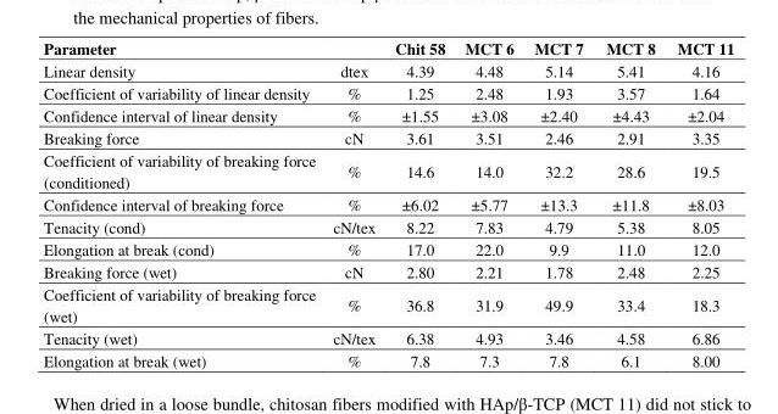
<table><thead><tr><td>Parameter</td><td></td><td>Chit 58</td><td>MCT 6</td><td>MCT 7</td><td>MCT 8</td><td>MCT 11</td></tr></thead><tbody><tr><td>Linear density</td><td>dtex</td><td>4.39</td><td>4.48</td><td>5.14</td><td>5.41</td><td>4.16</td></tr><tr><td>Coefficient of variability of linear density</td><td>%</td><td>1.25</td><td>2.48</td><td>1.93</td><td>3.57</td><td>1.64</td></tr><tr><td>Confidence interval of linear density</td><td>%</td><td>±1.55</td><td>±3.08</td><td>±2.40</td><td>±4.43</td><td>±2.04</td></tr><tr><td>Breaking force</td><td>cN</td><td>3.61</td><td>3.51</td><td>2.46</td><td>2.91</td><td>3.35</td></tr><tr><td>Coefficient of variability of breaking force (conditioned)</td><td>%</td><td>14.6</td><td>14.0</td><td>32.2</td><td>28.6</td><td>19.5</td></tr><tr><td>Confidence interval of breaking force</td><td>%</td><td>±6.02</td><td>±5.77</td><td>±13.3</td><td>±11.8</td><td>±8.03</td></tr><tr><td>Tenacity (cond)</td><td>cN/tex</td><td>8.22</td><td>7.83</td><td>4.79</td><td>5.38</td><td>8.05</td></tr><tr><td>Elongation at break (cond)</td><td>%</td><td>17.0</td><td>22.0</td><td>9.9</td><td>11.0</td><td>12.0</td></tr><tr><td>Breaking force (wet)</td><td>cN</td><td>2.80</td><td>2.21</td><td>1.78</td><td>2.48</td><td>2.25</td></tr><tr><td>Coefficient of variability of breaking force (wet)</td><td>%</td><td>36.8</td><td>31.9</td><td>49.9</td><td>33.4</td><td>18.3</td></tr><tr><td>Tenacity (wet)</td><td>cN/tex</td><td>6.38</td><td>4.93</td><td>3.46</td><td>4.58</td><td>6.86</td></tr><tr><td>Elongation at break (wet)</td><td>%</td><td>7.8</td><td>7.3</td><td>7.8</td><td>6.1</td><td>8.00</td></tr></tbody></table>